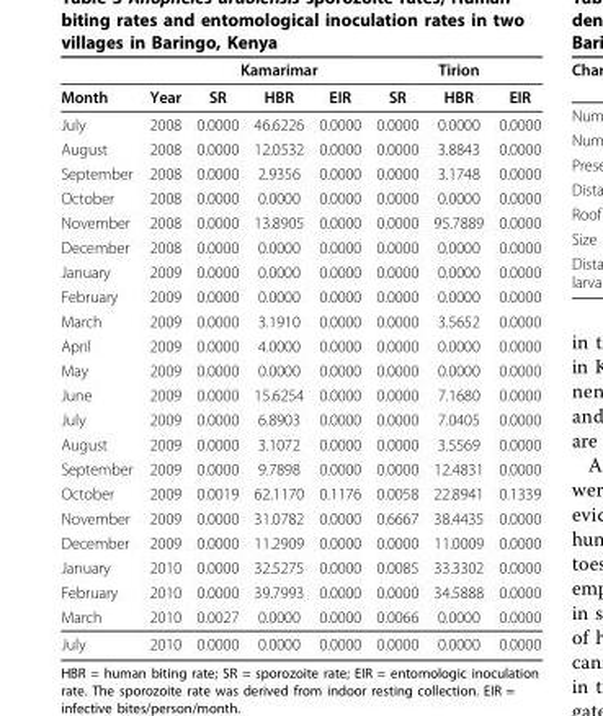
<table><thead><tr><td rowspan="2">Month</td><td rowspan="2">Year</td><td colspan="3">Kamarimar</td><td colspan="3">Tirion</td></tr><tr><td>SR</td><td>HBR</td><td>EIR</td><td>SR</td><td>HBR</td><td>EIR</td></tr></thead><tbody><tr><td>July</td><td>2008</td><td>0.0000</td><td>46.6226</td><td>0.0000</td><td>0.0000</td><td>0.0000</td><td>0.0000</td></tr><tr><td>August</td><td>2008</td><td>0.0000</td><td>12.0532</td><td>0.0000</td><td>0.0000</td><td>3.8843</td><td>0.0000</td></tr><tr><td>September</td><td>2008</td><td>0.0000</td><td>2.9356</td><td>0.0000</td><td>0.0000</td><td>3.1748</td><td>0.0000</td></tr><tr><td>October</td><td>2008</td><td>0.0000</td><td>0.0000</td><td>0.0000</td><td>0.0000</td><td>0.0000</td><td>0.0000</td></tr><tr><td>November</td><td>2008</td><td>0.0000</td><td>13.8905</td><td>0.0000</td><td>0.0000</td><td>95.7889</td><td>0.0000</td></tr><tr><td>December</td><td>2008</td><td>0.0000</td><td>0.0000</td><td>0.0000</td><td>0.0000</td><td>0.0000</td><td>0.0000</td></tr><tr><td>January</td><td>2009</td><td>0.0000</td><td>0.0000</td><td>0.0000</td><td>0.0000</td><td>0.0000</td><td>0.0000</td></tr><tr><td>February</td><td>2009</td><td>0.0000</td><td>0.0000</td><td>0.0000</td><td>0.0000</td><td>0.0000</td><td>0.0000</td></tr><tr><td>March</td><td>2009</td><td>0.0000</td><td>3.1910</td><td>0.0000</td><td>0.0000</td><td>3.5652</td><td>0.0000</td></tr><tr><td>April</td><td>2009</td><td>0.0000</td><td>4.0000</td><td>0.0000</td><td>0.0000</td><td>0.0000</td><td>0.0000</td></tr><tr><td>May</td><td>2009</td><td>0.0000</td><td>0.0000</td><td>0.0000</td><td>0.0000</td><td>0.0000</td><td>0.0000</td></tr><tr><td>June</td><td>2009</td><td>0.0000</td><td>15.6254</td><td>0.0000</td><td>0.0000</td><td>7.1680</td><td>0.0000</td></tr><tr><td>July</td><td>2009</td><td>0.0000</td><td>6.8903</td><td>0.0000</td><td>0.0000</td><td>7.0405</td><td>0.0000</td></tr><tr><td>August</td><td>2009</td><td>0.0000</td><td>3.1072</td><td>0.0000</td><td>0.0000</td><td>3.5569</td><td>0.0000</td></tr><tr><td>September</td><td>2009</td><td>0.0000</td><td>9.7898</td><td>0.0000</td><td>0.0000</td><td>12.4831</td><td>0.0000</td></tr><tr><td>October</td><td>2009</td><td>0.0019</td><td>62.1170</td><td>0.1176</td><td>0.0058</td><td>22.8941</td><td>0.1339</td></tr><tr><td>November</td><td>2009</td><td>0.0000</td><td>31.0782</td><td>0.0000</td><td>0.6667</td><td>38.4435</td><td>0.0000</td></tr><tr><td>December</td><td>2009</td><td>0.0000</td><td>11.2909</td><td>0.0000</td><td>0.0000</td><td>11.0009</td><td>0.0000</td></tr><tr><td>January</td><td>2010</td><td>0.0000</td><td>32.5275</td><td>0.0000</td><td>0.0085</td><td>33.3302</td><td>0.0000</td></tr><tr><td>February</td><td>2010</td><td>0.0000</td><td>39.7993</td><td>0.0000</td><td>0.0000</td><td>34.5888</td><td>0.0000</td></tr><tr><td>March</td><td>2010</td><td>0.0027</td><td>0.0000</td><td>0.0000</td><td>0.0066</td><td>0.0000</td><td>0.0000</td></tr><tr><td>July</td><td>2010</td><td>0.0000</td><td>0.0000</td><td>0.0000</td><td>0.0000</td><td>0.0000</td><td>0.0000</td></tr></tbody></table>